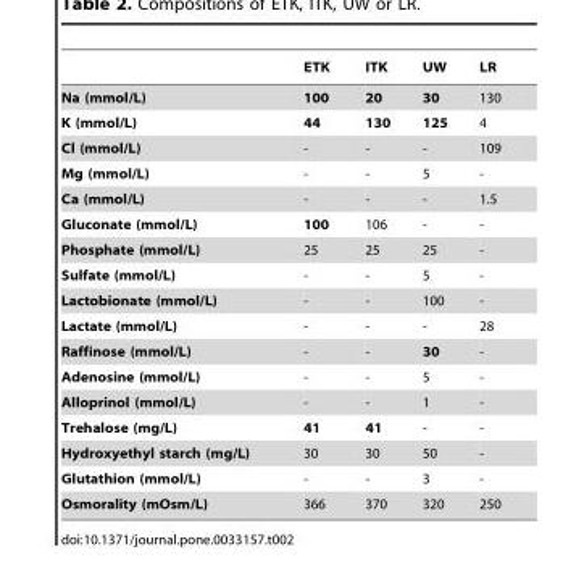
<table><thead><tr><td></td><td>ETK</td><td>ITK</td><td>UW</td><td>LR</td></tr></thead><tbody><tr><td>Na (mmol/L)</td><td>100</td><td>20</td><td>30</td><td>130</td></tr><tr><td>K (mmol/L)</td><td>44</td><td>130</td><td>125</td><td>4</td></tr><tr><td>Cl (mmol/L)</td><td>-</td><td>-</td><td>-</td><td>109</td></tr><tr><td>Mg (mmol/L)</td><td>-</td><td>-</td><td>5</td><td>-</td></tr><tr><td>Ca (mmol/L)</td><td>-</td><td>-</td><td>-</td><td>1.5</td></tr><tr><td>Gluconate (mmol/L)</td><td>100</td><td>106</td><td>-</td><td>-</td></tr><tr><td>Phosphate (mmol/L)</td><td>25</td><td>25</td><td>25</td><td>-</td></tr><tr><td>Sulfate (mmol/L)</td><td>-</td><td>-</td><td>5</td><td>-</td></tr><tr><td>Lactobionate (mmol/L)</td><td>-</td><td>-</td><td>100</td><td>-</td></tr><tr><td>Lactate (mmol/L)</td><td>-</td><td>-</td><td>-</td><td>28</td></tr><tr><td>Raffinose (mmol/L)</td><td>-</td><td>-</td><td>30</td><td>-</td></tr><tr><td>Adenosine (mmol/L)</td><td>-</td><td>-</td><td>5</td><td>-</td></tr><tr><td>Alloprinol (mmol/L)</td><td>-</td><td>-</td><td>1</td><td>-</td></tr><tr><td>Trehalose (mg/L)</td><td>41</td><td>41</td><td>-</td><td>-</td></tr><tr><td>Hydroxyethyl starch (mg/L)</td><td>30</td><td>30</td><td>50</td><td>-</td></tr><tr><td>Glutathion (mmol/L)</td><td>-</td><td>-</td><td>3</td><td>-</td></tr><tr><td>Osmorality (mOsm/L)</td><td>366</td><td>370</td><td>320</td><td>250</td></tr></tbody></table>